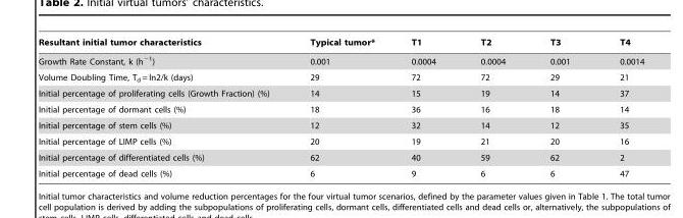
<table><thead><tr><td>Resultant initial tumor characteristics</td><td>Typical tumor*</td><td>T1</td><td>T2</td><td>T3</td><td>T4</td></tr></thead><tbody><tr><td>Growth Rate Constant, k (h<sup>−1</sup>)</td><td>0.001</td><td>0.0004</td><td>0.0004</td><td>0.001</td><td>0.0014</td></tr><tr><td>Volume Doubling Time, T<sub>d</sub> = ln2/k (days)</td><td>29</td><td>72</td><td>72</td><td>29</td><td>21</td></tr><tr><td>Initial percentage of proliferating cells (Growth Fraction) (%)</td><td>14</td><td>15</td><td>19</td><td>14</td><td>37</td></tr><tr><td>Initial percentage of dormant cells (%)</td><td>18</td><td>36</td><td>16</td><td>18</td><td>14</td></tr><tr><td>Initial percentage of stem cells (%)</td><td>12</td><td>32</td><td>14</td><td>12</td><td>35</td></tr><tr><td>Initial percentage of LIMP cells (%)</td><td>20</td><td>19</td><td>21</td><td>20</td><td>16</td></tr><tr><td>Initial percentage of differentiated cells (%)</td><td>62</td><td>40</td><td>59</td><td>62</td><td>2</td></tr><tr><td>Initial percentage of dead cells (%)</td><td>6</td><td>9</td><td>6</td><td>6</td><td>47</td></tr></tbody></table>